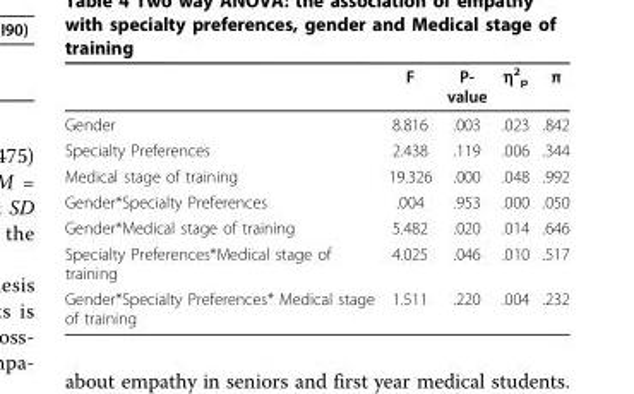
<table><thead><tr><td></td><td>F</td><td>P- value</td><td>η<sup>2</sup> <sub>p</sub></td><td>π</td></tr></thead><tbody><tr><td>Gender</td><td>8.816</td><td>.003</td><td>.023</td><td>.842</td></tr><tr><td>Specialty Preferences</td><td>2.438</td><td>.119</td><td>.006</td><td>.344</td></tr><tr><td>Medical stage of training</td><td>19.326</td><td>.000</td><td>.048</td><td>.992</td></tr><tr><td>Gender*Specialty Preferences</td><td>.004</td><td>.953</td><td>.000</td><td>.050</td></tr><tr><td>Gender*Medical stage of training</td><td>5.482</td><td>.020</td><td>.014</td><td>.646</td></tr><tr><td>Specialty Preferences*Medical stage of training</td><td>4.025</td><td>.046</td><td>.010</td><td>.517</td></tr><tr><td>Gender*Specialty Preferences* Medical stage of training</td><td>1.511</td><td>.220</td><td>.004</td><td>.232</td></tr></tbody></table>